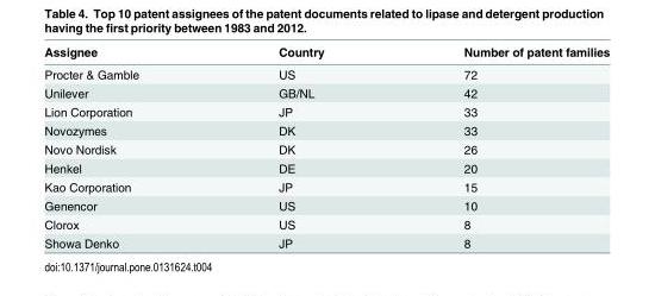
<table><thead><tr><td>Assignee</td><td>Country</td><td>Number of patent families</td></tr></thead><tbody><tr><td>Procter &amp; Gamble</td><td>US</td><td>72</td></tr><tr><td>Unilever</td><td>GB/NL</td><td>42</td></tr><tr><td>Lion Corporation</td><td>JP</td><td>33</td></tr><tr><td>Novozymes</td><td>DK</td><td>33</td></tr><tr><td>Novo Nordisk</td><td>DK</td><td>26</td></tr><tr><td>Henkel</td><td>DE</td><td>20</td></tr><tr><td>Kao Corporation</td><td>JP</td><td>15</td></tr><tr><td>Genencor</td><td>US</td><td>10</td></tr><tr><td>Clorox</td><td>US</td><td>8</td></tr><tr><td>Showa Denko</td><td>JP</td><td>8</td></tr></tbody></table>